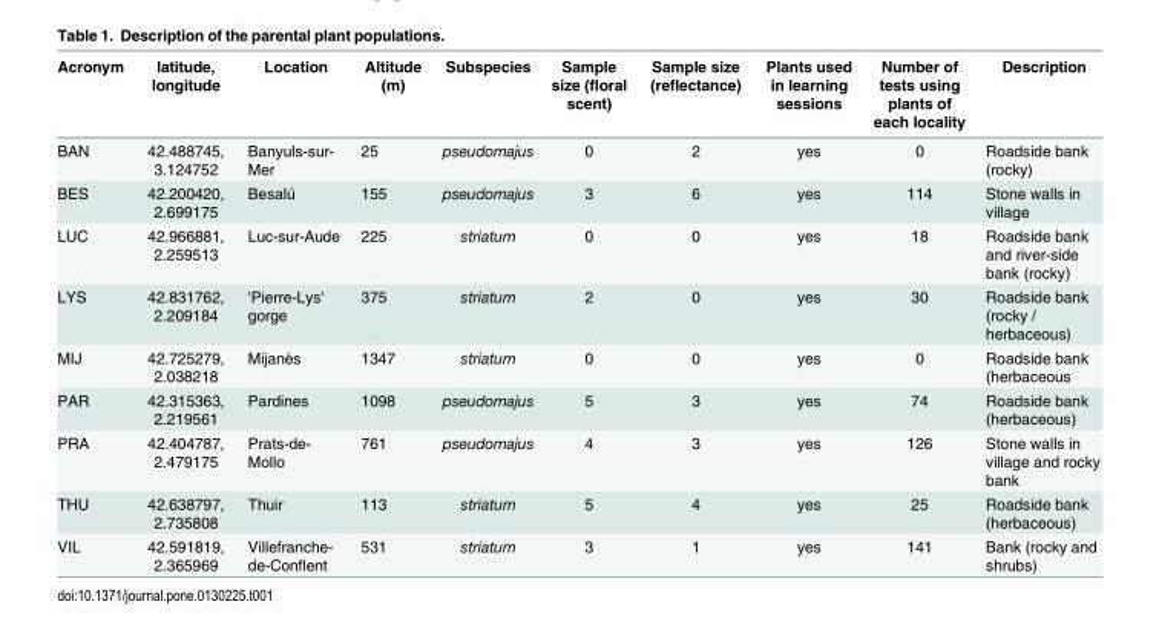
<table><thead><tr><td>Acronym</td><td>latitude, longitude</td><td>Location</td><td>Altitude (m)</td><td>Subspecies</td><td>Sample size (floral scent)</td><td>Sample size (reflectance)</td><td>Plants used in learning sessions</td><td>Number of tests using plants of each locality</td><td>Description</td></tr></thead><tbody><tr><td>BAN</td><td>42.488745, 3.124752</td><td>Banyuls-sur- Mer</td><td>25</td><td>pseudomajus</td><td>0</td><td>2</td><td>yes</td><td>0</td><td>Roadside bank (rocky)</td></tr><tr><td>BES</td><td>42.200420, 2.699175</td><td>Besalú</td><td>155</td><td>pseudomajus</td><td>3</td><td>6</td><td>yes</td><td>114</td><td>Stone walls in village</td></tr><tr><td>LUC</td><td>42.966881, 2.259513</td><td>Luc-sur-Aude</td><td>225</td><td>striatum</td><td>0</td><td>0</td><td>yes</td><td>18</td><td>Roadside bank and river-side bank (rocky)</td></tr><tr><td>LYS</td><td>42.831762, 2.209184</td><td>&#x27;Pierre-Lys&#x27; gorge</td><td>375</td><td>striatum</td><td>2</td><td>0</td><td>yes</td><td>30</td><td>Roadside bank (rocky / herbaceous)</td></tr><tr><td>MIJ</td><td>42.725279, 2.038218</td><td>Mijanès</td><td>1347</td><td>striatum</td><td>0</td><td>0</td><td>yes</td><td>0</td><td>Roadside bank (herbaceous</td></tr><tr><td>PAR</td><td>42.315363, 2.219561</td><td>Pardines</td><td>1098</td><td>pseudomajus</td><td>5</td><td>3</td><td>yes</td><td>74</td><td>Roadside bank (herbaceous)</td></tr><tr><td>PRA</td><td>42.404787, 2.479175</td><td>Prats-de- Mollo</td><td>761</td><td>pseudomajus</td><td>4</td><td>3</td><td>yes</td><td>126</td><td>Stone walls in village and rocky bank</td></tr><tr><td>THU</td><td>42.638797, 2.735808</td><td>Thuir</td><td>113</td><td>striatum</td><td>5</td><td>4</td><td>yes</td><td>25</td><td>Roadside bank (herbaceous)</td></tr><tr><td>VIL</td><td>42.591819, 2.365969</td><td>Villefranche- de-Conflent</td><td>531</td><td>striatum</td><td>3</td><td>1</td><td>yes</td><td>141</td><td>Bank (rocky and shrubs)</td></tr></tbody></table>